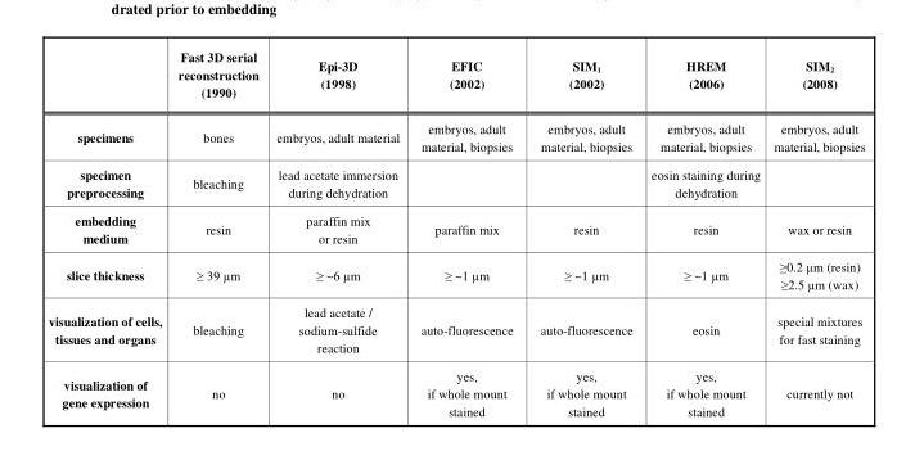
<table><thead><tr><td></td><td>Fast 3D serial reconstruction (1990)</td><td>Epi-3D (1998)</td><td>EFIC (2002)</td><td>SIM<sub>1</sub> (2002)</td><td>HREM (2006)</td><td>SIM<sub>2</sub> (2008)</td></tr></thead><tbody><tr><td>specimens</td><td>bones</td><td>embryos, adult material</td><td>embryos, adult material, biopsies</td><td>embryos, adult material, biopsies</td><td>embryos, adult material, biopsies</td><td>embryos, adult material, biopsies</td></tr><tr><td>specimen preprocessing</td><td>bleaching</td><td>lead acetate immersion during dehydration</td><td></td><td></td><td>eosin staining during dehydration</td><td></td></tr><tr><td>embedding medium</td><td>resin</td><td>paraffin mix or resin</td><td>paraffin mix</td><td>resin</td><td>resin</td><td>wax or resin</td></tr><tr><td>slice thickness</td><td>≥ 39 µm</td><td>≥ ~6 µm</td><td>≥ ~1 µm</td><td>≥ ~1 µm</td><td>≥ ~1 µm</td><td>≥0.2 µm (resin) ≥2.5 µm (wax)</td></tr><tr><td>visualization of cells, tissues and organs</td><td>bleaching</td><td>lead acetate / sodium-sulfide reaction</td><td>auto-fluorescence</td><td>auto-fluorescence</td><td>eosin</td><td>special mixtures for fast staining</td></tr><tr><td>visualization of gene expression</td><td>no</td><td>no</td><td>yes, if whole mount stained</td><td>yes, if whole mount stained</td><td>yes, if whole mount stained</td><td>currently not</td></tr></tbody></table>